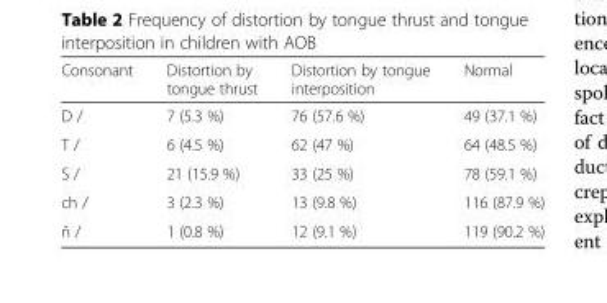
<table><thead><tr><td>Consonant</td><td>Distortion by tongue thrust</td><td>Distortion by tongue interposition</td><td>Normal</td></tr></thead><tbody><tr><td>D /</td><td>7 (5.3 %)</td><td>76 (57.6 %)</td><td>49 (37.1 %)</td></tr><tr><td>T /</td><td>6 (4.5 %)</td><td>62 (47 %)</td><td>64 (48.5 %)</td></tr><tr><td>S /</td><td>21 (15.9 %)</td><td>33 (25 %)</td><td>78 (59.1 %)</td></tr><tr><td>ch /</td><td>3 (2.3 %)</td><td>13 (9.8 %)</td><td>116 (87.9 %)</td></tr><tr><td>ñ /</td><td>1 (0.8 %)</td><td>12 (9.1 %)</td><td>119 (90.2 %)</td></tr></tbody></table>